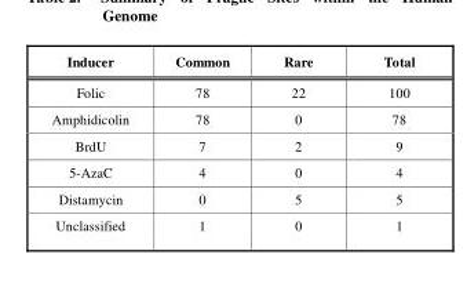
<table><thead><tr><td>Inducer</td><td>Common</td><td>Rare</td><td>Total</td></tr></thead><tbody><tr><td>Folic</td><td>78</td><td>22</td><td>100</td></tr><tr><td>Amphidicolin</td><td>78</td><td>0</td><td>78</td></tr><tr><td>BrdU</td><td>7</td><td>2</td><td>9</td></tr><tr><td>5-AzaC</td><td>4</td><td>0</td><td>4</td></tr><tr><td>Distamycin</td><td>0</td><td>5</td><td>5</td></tr><tr><td>Unclassified</td><td>1</td><td>0</td><td>1</td></tr></tbody></table>